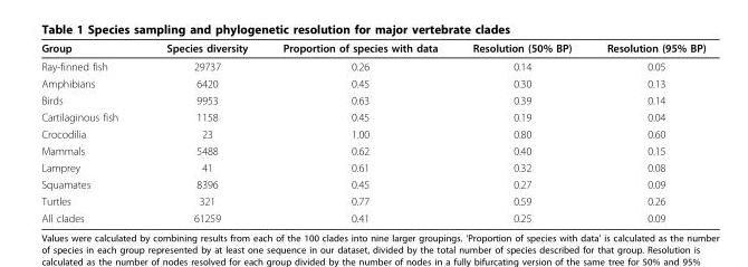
<table><thead><tr><td>Group</td><td>Species diversity</td><td>Proportion of species with data</td><td>Resolution (50% BP)</td><td>Resolution (95% BP)</td></tr></thead><tbody><tr><td>Ray-finned fish</td><td>29737</td><td>0.26</td><td>0.14</td><td>0.05</td></tr><tr><td>Amphibians</td><td>6420</td><td>0.45</td><td>0.30</td><td>0.13</td></tr><tr><td>Birds</td><td>9953</td><td>0.63</td><td>0.39</td><td>0.14</td></tr><tr><td>Cartilaginous fish</td><td>1158</td><td>0.45</td><td>0.19</td><td>0.04</td></tr><tr><td>Crocodilia</td><td>23</td><td>1.00</td><td>0.80</td><td>0.60</td></tr><tr><td>Mammals</td><td>5488</td><td>0.62</td><td>0.40</td><td>0.15</td></tr><tr><td>Lamprey</td><td>41</td><td>0.61</td><td>0.32</td><td>0.08</td></tr><tr><td>Squamates</td><td>8396</td><td>0.45</td><td>0.27</td><td>0.09</td></tr><tr><td>Turtles</td><td>321</td><td>0.77</td><td>0.59</td><td>0.26</td></tr><tr><td>All clades</td><td>61259</td><td>0.41</td><td>0.25</td><td>0.09</td></tr></tbody></table>